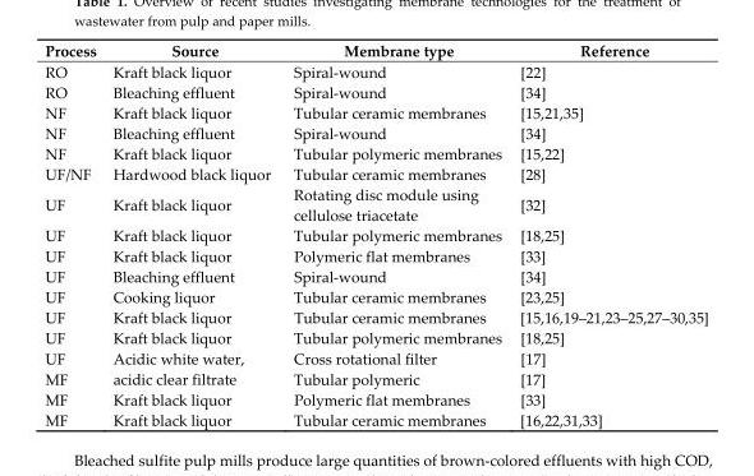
<table><thead><tr><td>Process</td><td>Source</td><td>Membrane type</td><td>Reference</td></tr></thead><tbody><tr><td>RO</td><td>Kraft black liquor</td><td>Spiral-wound</td><td>[22]</td></tr><tr><td>RO</td><td>Bleaching effluent</td><td>Spiral-wound</td><td>[34]</td></tr><tr><td>NF</td><td>Kraft black liquor</td><td>Tubular ceramic membranes</td><td>[15,21,35]</td></tr><tr><td>NF</td><td>Bleaching effluent</td><td>Spiral-wound</td><td>[34]</td></tr><tr><td>NF</td><td>Kraft black liquor</td><td>Tubular polymeric membranes</td><td>[15,22]</td></tr><tr><td>UF/NF</td><td>Hardwood black liquor</td><td>Tubular ceramic membranes</td><td>[28]</td></tr><tr><td>UF</td><td>Kraft black liquor</td><td>Rotating disc module using cellulose triacetate</td><td>[32]</td></tr><tr><td>UF</td><td>Kraft black liquor</td><td>Tubular polymeric membranes</td><td>[18,25]</td></tr><tr><td>UF</td><td>Kraft black liquor</td><td>Polymeric flat membranes</td><td>[33]</td></tr><tr><td>UF</td><td>Bleaching effluent</td><td>Spiral-wound</td><td>[34]</td></tr><tr><td>UF</td><td>Cooking liquor</td><td>Tubular ceramic membranes</td><td>[23,25]</td></tr><tr><td>UF</td><td>Kraft black liquor</td><td>Tubular ceramic membranes</td><td>[15,16,19–21,23–25,27–30,35]</td></tr><tr><td>UF</td><td>Kraft black liquor</td><td>Tubular polymeric membranes</td><td>[18,25]</td></tr><tr><td>UF</td><td rowspan="2">Acidic white water, acidic clear filtrate</td><td>Cross rotational filter</td><td>[17]</td></tr><tr><td>MF</td><td>Tubular polymeric</td><td>[17]</td></tr><tr><td>MF</td><td>Kraft black liquor</td><td>Polymeric flat membranes</td><td>[33]</td></tr><tr><td>MF</td><td>Kraft black liquor</td><td>Tubular ceramic membranes</td><td>[16,22,31,33]</td></tr></tbody></table>